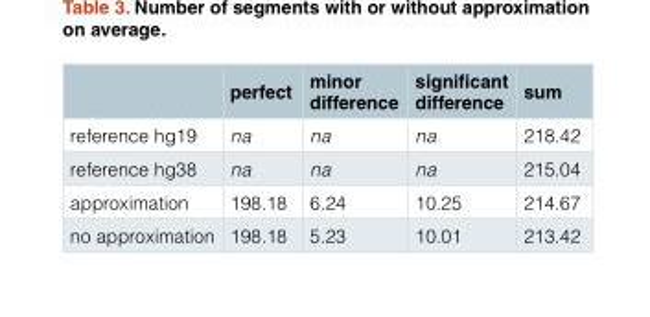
<table><thead><tr><td></td><td>perfect</td><td>minor difference</td><td>significant difference</td><td>sum</td></tr></thead><tbody><tr><td>reference hg19</td><td>na</td><td>na</td><td>na</td><td>218.42</td></tr><tr><td>reference hg38</td><td>na</td><td>na</td><td>na</td><td>215.04</td></tr><tr><td>approximation</td><td>198.18</td><td>6.24</td><td>10.25</td><td>214.67</td></tr><tr><td>no approximation</td><td>198.18</td><td>5.23</td><td>10.01</td><td>213.42</td></tr></tbody></table>